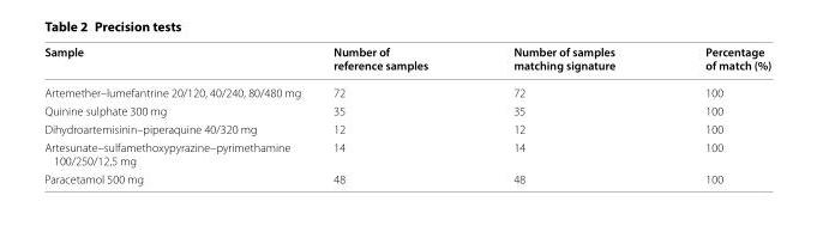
<table><thead><tr><td>Sample</td><td>Number of reference samples</td><td>Number of samples matching signature</td><td>Percentage of match (%)</td></tr></thead><tbody><tr><td>Artemether–lumefantrine 20/120, 40/240, 80/480 mg</td><td>72</td><td>72</td><td>100</td></tr><tr><td>Quinine sulphate 300 mg</td><td>35</td><td>35</td><td>100</td></tr><tr><td>Dihydroartemisinin–piperaquine 40/320 mg</td><td>12</td><td>12</td><td>100</td></tr><tr><td>Artesunate–sulfamethoxypyrazine–pyrimethamine 100/250/12,5 mg</td><td>14</td><td>14</td><td>100</td></tr><tr><td>Paracetamol 500 mg</td><td>48</td><td>48</td><td>100</td></tr></tbody></table>